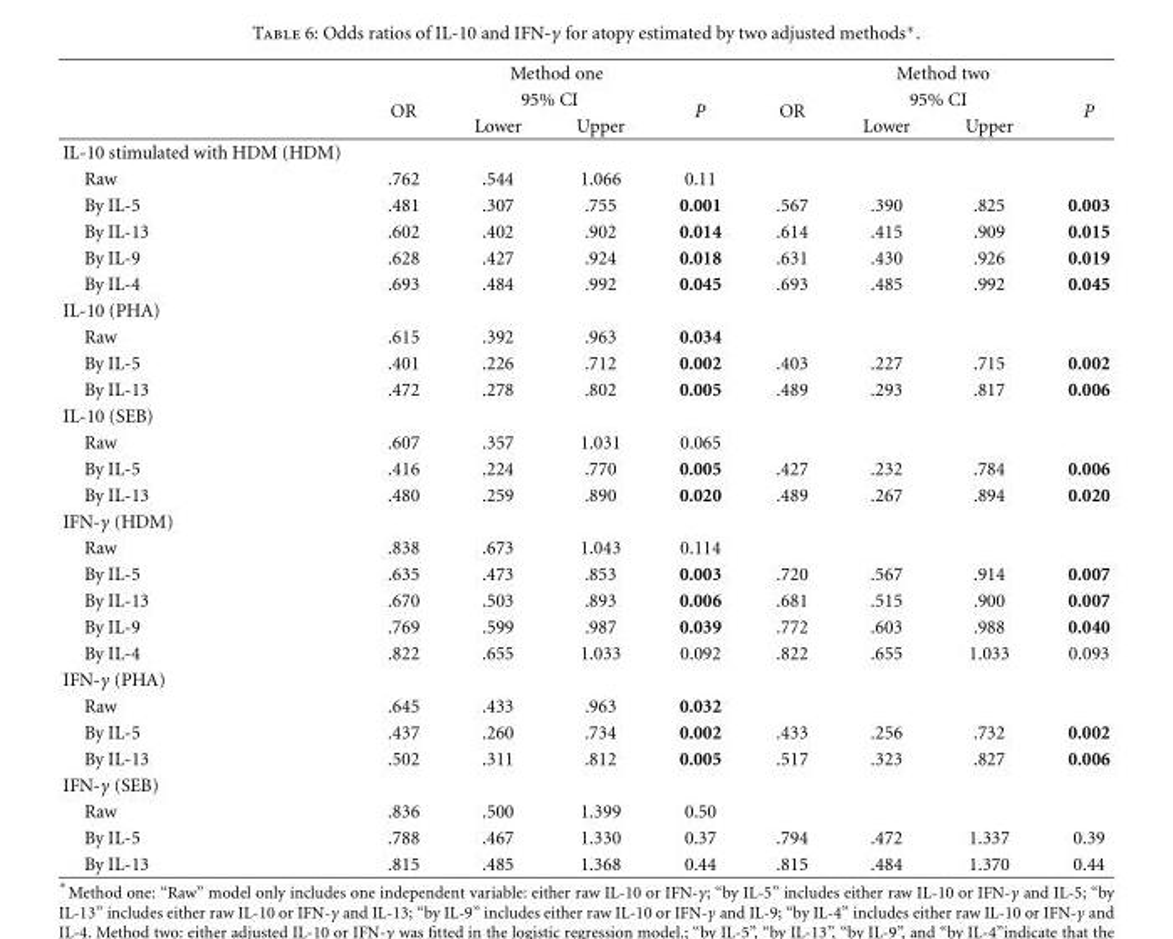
<table><thead><tr><td rowspan="3"></td><td colspan="4">Method one</td><td colspan="4">Method two</td></tr><tr><td rowspan="2">OR</td><td colspan="2">95% CI</td><td rowspan="2">P</td><td rowspan="2">OR</td><td colspan="2">95% CI</td><td rowspan="2">P</td></tr><tr><td>Lower</td><td>Upper</td><td>Lower</td><td>Upper</td></tr></thead><tbody><tr><td colspan="9">IL-10 stimulated with HDM (HDM)</td></tr><tr><td>Raw</td><td>.762</td><td>.544</td><td>1.066</td><td>0.11</td><td></td><td></td><td></td><td></td></tr><tr><td>By IL-5</td><td>.481</td><td>.307</td><td>.755</td><td>0.001</td><td>.567</td><td>.390</td><td>.825</td><td>0.003</td></tr><tr><td>By IL-13</td><td>.602</td><td>.402</td><td>.902</td><td>0.014</td><td>.614</td><td>.415</td><td>.909</td><td>0.015</td></tr><tr><td>By IL-9</td><td>.628</td><td>.427</td><td>.924</td><td>0.018</td><td>.631</td><td>.430</td><td>.926</td><td>0.019</td></tr><tr><td>By IL-4</td><td>.693</td><td>.484</td><td>.992</td><td>0.045</td><td>.693</td><td>.485</td><td>.992</td><td>0.045</td></tr><tr><td colspan="9">IL-10 (PHA)</td></tr><tr><td>Raw</td><td>.615</td><td>.392</td><td>.963</td><td>0.034</td><td></td><td></td><td></td><td></td></tr><tr><td>By IL-5</td><td>.401</td><td>.226</td><td>.712</td><td>0.002</td><td>.403</td><td>.227</td><td>.715</td><td>0.002</td></tr><tr><td>By IL-13</td><td>.472</td><td>.278</td><td>.802</td><td>0.005</td><td>.489</td><td>.293</td><td>.817</td><td>0.006</td></tr><tr><td colspan="9">IL-10 (SEB)</td></tr><tr><td>Raw</td><td>.607</td><td>.357</td><td>1.031</td><td>0.065</td><td></td><td></td><td></td><td></td></tr><tr><td>By IL-5</td><td>.416</td><td>.224</td><td>.770</td><td>0.005</td><td>.427</td><td>.232</td><td>.784</td><td>0.006</td></tr><tr><td>By IL-13</td><td>.480</td><td>.259</td><td>.890</td><td>0.020</td><td>.489</td><td>.267</td><td>.894</td><td>0.020</td></tr><tr><td colspan="9">IFN-γ (HDM)</td></tr><tr><td>Raw</td><td>.838</td><td>.673</td><td>1.043</td><td>0.114</td><td></td><td></td><td></td><td></td></tr><tr><td>By IL-5</td><td>.635</td><td>.473</td><td>.853</td><td>0.003</td><td>.720</td><td>.567</td><td>.914</td><td>0.007</td></tr><tr><td>By IL-13</td><td>.670</td><td>.503</td><td>.893</td><td>0.006</td><td>.681</td><td>.515</td><td>.900</td><td>0.007</td></tr><tr><td>By IL-9</td><td>.769</td><td>.599</td><td>.987</td><td>0.039</td><td>.772</td><td>.603</td><td>.988</td><td>0.040</td></tr><tr><td>By IL-4</td><td>.822</td><td>.655</td><td>1.033</td><td>0.092</td><td>.822</td><td>.655</td><td>1.033</td><td>0.093</td></tr><tr><td colspan="9">IFN-γ (PHA)</td></tr><tr><td>Raw</td><td>.645</td><td>.433</td><td>.963</td><td>0.032</td><td></td><td></td><td></td><td></td></tr><tr><td>By IL-5</td><td>.437</td><td>.260</td><td>.734</td><td>0.002</td><td>.433</td><td>.256</td><td>.732</td><td>0.002</td></tr><tr><td>By IL-13</td><td>.502</td><td>.311</td><td>.812</td><td>0.005</td><td>.517</td><td>.323</td><td>.827</td><td>0.006</td></tr><tr><td colspan="9">IFN-γ (SEB)</td></tr><tr><td>Raw</td><td>.836</td><td>.500</td><td>1.399</td><td>0.50</td><td></td><td></td><td></td><td></td></tr><tr><td>By IL-5</td><td>.788</td><td>.467</td><td>1.330</td><td>0.37</td><td>.794</td><td>.472</td><td>1.337</td><td>0.39</td></tr><tr><td>By IL-13</td><td>.815</td><td>.485</td><td>1.368</td><td>0.44</td><td>.815</td><td>.484</td><td>1.370</td><td>0.44</td></tr></tbody></table>